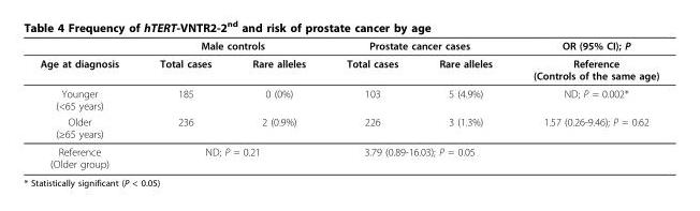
<table><thead><tr><td rowspan="2">Age at diagnosis</td><td colspan="2">Male controls</td><td colspan="2">Prostate cancer cases</td><td rowspan="2">OR (95% CI); P Reference (Controls of the same age)</td></tr><tr><td>Total cases</td><td>Rare alleles</td><td>Total cases</td><td>Rare alleles</td></tr></thead><tbody><tr><td>Younger (&lt;65 years)</td><td>185</td><td>0 (0%)</td><td>103</td><td>5 (4.9%)</td><td>ND; P = 0.002*</td></tr><tr><td>Older (≥65 years)</td><td>236</td><td>2 (0.9%)</td><td>226</td><td>3 (1.3%)</td><td>1.57 (0.26-9.46); P = 0.62</td></tr><tr><td>Reference (Older group)</td><td colspan="2">ND; P = 0.21</td><td colspan="2">3.79 (0.89-16.03); P = 0.05</td><td></td></tr></tbody></table>